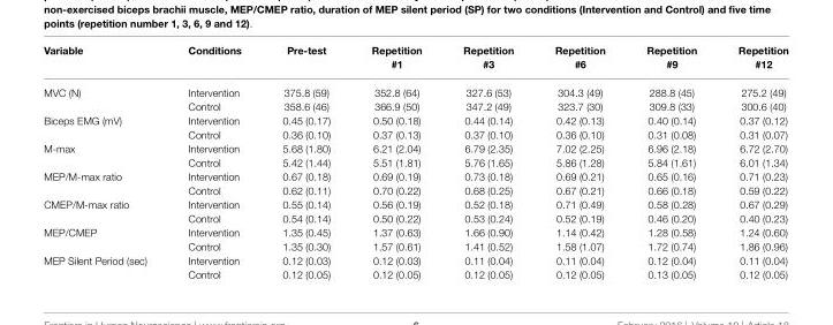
<table><thead><tr><td>Variable</td><td>Conditions</td><td>Pre-test</td><td>Repetition #1</td><td>Repetition #3</td><td>Repetition #6</td><td>Repetition #9</td><td>Repetition #12</td></tr></thead><tbody><tr><td rowspan="2">MVC (N)</td><td>Intervention</td><td>375.8 (59)</td><td>352.8 (64)</td><td>327.6 (53)</td><td>304.3 (49)</td><td>288.8 (45)</td><td>275.2 (49)</td></tr><tr><td>Control</td><td>358.6 (46)</td><td>366.9 (50)</td><td>347.2 (49)</td><td>323.7 (30)</td><td>309.8 (33)</td><td>300.6 (40)</td></tr><tr><td rowspan="2">Biceps EMG (mV)</td><td>Intervention</td><td>0.45 (0.17)</td><td>0.50 (0.18)</td><td>0.44 (0.14)</td><td>0.42 (0.13)</td><td>0.40 (0.14)</td><td>0.37 (0.12)</td></tr><tr><td>Control</td><td>0.36 (0.10)</td><td>0.37 (0.13)</td><td>0.37 (0.10)</td><td>0.36 (0.10)</td><td>0.31 (0.08)</td><td>0.31 (0.07)</td></tr><tr><td rowspan="2">M-max</td><td>Intervention</td><td>5.68 (1.80)</td><td>6.21 (2.04)</td><td>6.79 (2.35)</td><td>7.02 (2.25)</td><td>6.96 (2.18)</td><td>6.72 (2.70)</td></tr><tr><td>Control</td><td>5.42 (1.44)</td><td>5.51 (1.81)</td><td>5.76 (1.65)</td><td>5.86 (1.28)</td><td>5.84 (1.61)</td><td>6.01 (1.34)</td></tr><tr><td rowspan="2">MEP/M-max ratio</td><td>Intervention</td><td>0.67 (0.18)</td><td>0.69 (0.19)</td><td>0.73 (0.18)</td><td>0.69 (0.21)</td><td>0.65 (0.16)</td><td>0.71 (0.23)</td></tr><tr><td>Control</td><td>0.62 (0.11)</td><td>0.70 (0.22)</td><td>0.68 (0.25)</td><td>0.67 (0.21)</td><td>0.66 (0.18)</td><td>0.59 (0.22)</td></tr><tr><td rowspan="2">CMEP/M-max ratio</td><td>Intervention</td><td>0.55 (0.14)</td><td>0.56 (0.19)</td><td>0.52 (0.18)</td><td>0.71 (0.49)</td><td>0.58 (0.28)</td><td>0.67 (0.29)</td></tr><tr><td>Control</td><td>0.54 (0.14)</td><td>0.50 (0.22)</td><td>0.53 (0.24)</td><td>0.52 (0.19)</td><td>0.46 (0.20)</td><td>0.40 (0.23)</td></tr><tr><td rowspan="2">MEP/CMEP</td><td>Intervention</td><td>1.35 (0.45)</td><td>1.37 (0.63)</td><td>1.66 (0.90)</td><td>1.14 (0.42)</td><td>1.28 (0.58)</td><td>1.24 (0.60)</td></tr><tr><td>Control</td><td>1.35 (0.30)</td><td>1.57 (0.61)</td><td>1.41 (0.52)</td><td>1.58 (1.07)</td><td>1.72 (0.74)</td><td>1.86 (0.96)</td></tr><tr><td rowspan="2">MEP Silent Period (sec)</td><td>Intervention</td><td>0.12 (0.03)</td><td>0.12 (0.03)</td><td>0.11 (0.04)</td><td>0.11 (0.04)</td><td>0.12 (0.04)</td><td>0.11 (0.04)</td></tr><tr><td>Control</td><td>0.12 (0.05)</td><td>0.12 (0.05)</td><td>0.12 (0.05)</td><td>0.12 (0.05)</td><td>0.13 (0.05)</td><td>0.12 (0.05)</td></tr></tbody></table>